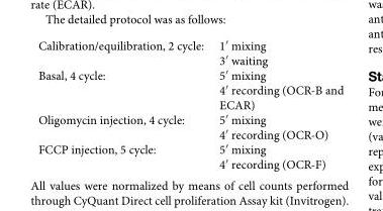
<table><tbody><tr><td rowspan="2">Calibration/equilibration, 2 cycle:</td><td>1′ mixing</td></tr><tr><td>3′ waiting</td></tr><tr><td rowspan="2">Basal, 4 cycle:</td><td>5′ mixing</td></tr><tr><td>4′ recording (OCR-B and ECAR)</td></tr><tr><td rowspan="2">Oligomycin injection, 4 cycle:</td><td>5′ mixing</td></tr><tr><td>4′ recording (OCR-O)</td></tr><tr><td rowspan="2">FCCP injection, 5 cycle:</td><td>5′ mixing</td></tr><tr><td>4′ recording (OCR-F)</td></tr></tbody></table>